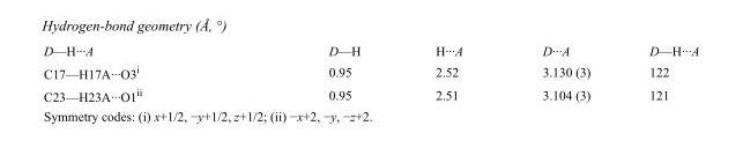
<table><tbody><tr><td>D—H···A</td><td>D—H</td><td>H···A</td><td>D···A</td><td>D—H···A</td></tr><tr><td>C17—H17A···O3<sup>i</sup></td><td>0.95</td><td>2.52</td><td>3.130 (3)</td><td>122</td></tr><tr><td>C23—H23A···O1<sup>ii</sup></td><td>0.95</td><td>2.51</td><td>3.104 (3)</td><td>121</td></tr></tbody></table>